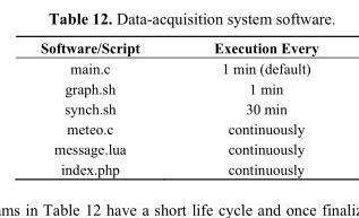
<table><thead><tr><td>Software/Script</td><td>Execution Every</td></tr></thead><tbody><tr><td>main.c</td><td>1 min (default)</td></tr><tr><td>graph.sh</td><td>1 min</td></tr><tr><td>synch.sh</td><td>30 min</td></tr><tr><td>meteo.c</td><td>continuously</td></tr><tr><td>message.lua</td><td>continuously</td></tr><tr><td>index.php</td><td>continuously</td></tr></tbody></table>